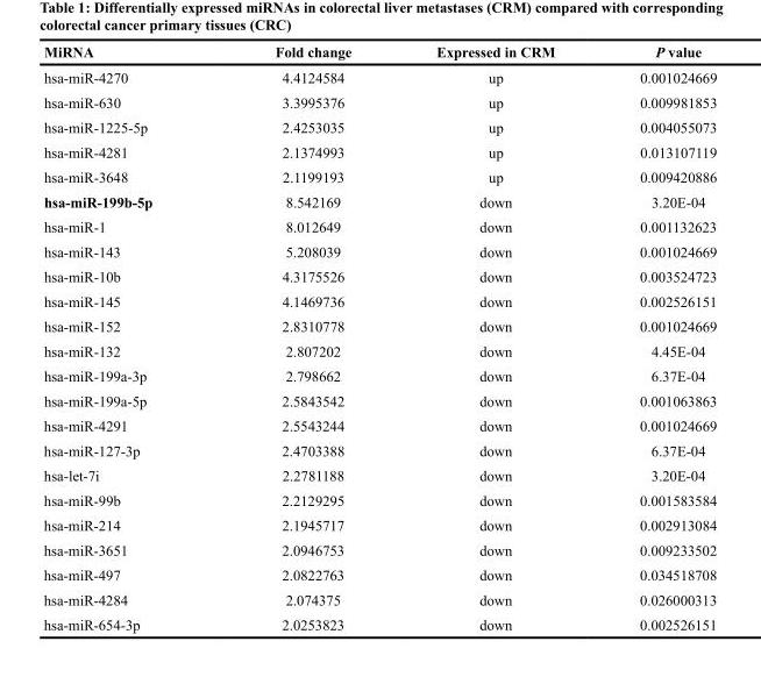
<table><thead><tr><td>MiRNA</td><td>Fold change</td><td>Expressed in CRM</td><td>P value</td></tr></thead><tbody><tr><td>hsa-miR-4270</td><td>4.4124584</td><td>up</td><td>0.001024669</td></tr><tr><td>hsa-miR-630</td><td>3.3995376</td><td>up</td><td>0.009981853</td></tr><tr><td>hsa-miR-1225-5p</td><td>2.4253035</td><td>up</td><td>0.004055073</td></tr><tr><td>hsa-miR-4281</td><td>2.1374993</td><td>up</td><td>0.013107119</td></tr><tr><td>hsa-miR-3648</td><td>2.1199193</td><td>up</td><td>0.009420886</td></tr><tr><td>hsa-miR-199b-5p</td><td>8.542169</td><td>down</td><td>3.20E-04</td></tr><tr><td>hsa-miR-1</td><td>8.012649</td><td>down</td><td>0.001132623</td></tr><tr><td>hsa-miR-143</td><td>5.208039</td><td>down</td><td>0.001024669</td></tr><tr><td>hsa-miR-10b</td><td>4.3175526</td><td>down</td><td>0.003524723</td></tr><tr><td>hsa-miR-145</td><td>4.1469736</td><td>down</td><td>0.002526151</td></tr><tr><td>hsa-miR-152</td><td>2.8310778</td><td>down</td><td>0.001024669</td></tr><tr><td>hsa-miR-132</td><td>2.807202</td><td>down</td><td>4.45E-04</td></tr><tr><td>hsa-miR-199a-3p</td><td>2.798662</td><td>down</td><td>6.37E-04</td></tr><tr><td>hsa-miR-199a-5p</td><td>2.5843542</td><td>down</td><td>0.001063863</td></tr><tr><td>hsa-miR-4291</td><td>2.5543244</td><td>down</td><td>0.001024669</td></tr><tr><td>hsa-miR-127-3p</td><td>2.4703388</td><td>down</td><td>6.37E-04</td></tr><tr><td>hsa-let-7i</td><td>2.2781188</td><td>down</td><td>3.20E-04</td></tr><tr><td>hsa-miR-99b</td><td>2.2129295</td><td>down</td><td>0.001583584</td></tr><tr><td>hsa-miR-214</td><td>2.1945717</td><td>down</td><td>0.002913084</td></tr><tr><td>hsa-miR-3651</td><td>2.0946753</td><td>down</td><td>0.009233502</td></tr><tr><td>hsa-miR-497</td><td>2.0822763</td><td>down</td><td>0.034518708</td></tr><tr><td>hsa-miR-4284</td><td>2.074375</td><td>down</td><td>0.026000313</td></tr><tr><td>hsa-miR-654-3p</td><td>2.0253823</td><td>down</td><td>0.002526151</td></tr></tbody></table>